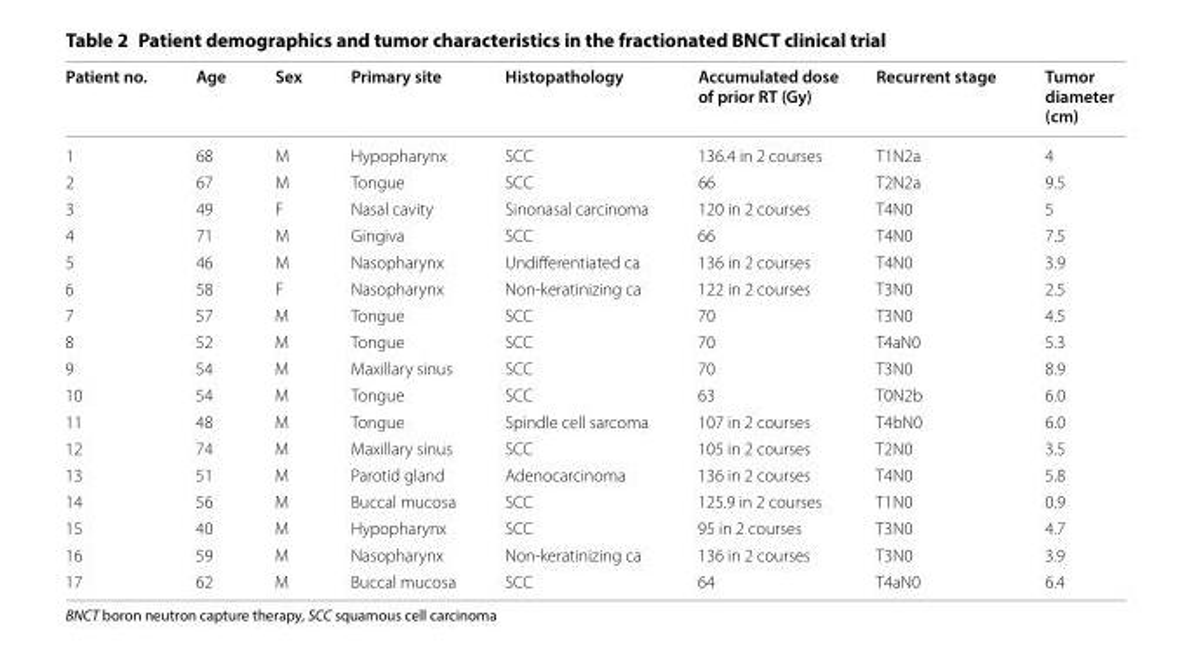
<table><thead><tr><td>Patient no.</td><td>Age</td><td>Sex</td><td>Primary site</td><td>Histopathology</td><td>Accumulated dose of prior RT (Gy)</td><td>Recurrent stage</td><td>Tumor diameter (cm)</td></tr></thead><tbody><tr><td>1</td><td>68</td><td>M</td><td>Hypopharynx</td><td>SCC</td><td>136.4 in 2 courses</td><td>T1N2a</td><td>4</td></tr><tr><td>2</td><td>67</td><td>M</td><td>Tongue</td><td>SCC</td><td>66</td><td>T2N2a</td><td>9.5</td></tr><tr><td>3</td><td>49</td><td>F</td><td>Nasal cavity</td><td>Sinonasal carcinoma</td><td>120 in 2 courses</td><td>T4N0</td><td>5</td></tr><tr><td>4</td><td>71</td><td>M</td><td>Gingiva</td><td>SCC</td><td>66</td><td>T4N0</td><td>7.5</td></tr><tr><td>5</td><td>46</td><td>M</td><td>Nasopharynx</td><td>Undifferentiated ca</td><td>136 in 2 courses</td><td>T4N0</td><td>3.9</td></tr><tr><td>6</td><td>58</td><td>F</td><td>Nasopharynx</td><td>Non‑keratinizing ca</td><td>122 in 2 courses</td><td>T3N0</td><td>2.5</td></tr><tr><td>7</td><td>57</td><td>M</td><td>Tongue</td><td>SCC</td><td>70</td><td>T3N0</td><td>4.5</td></tr><tr><td>8</td><td>52</td><td>M</td><td>Tongue</td><td>SCC</td><td>70</td><td>T4aN0</td><td>5.3</td></tr><tr><td>9</td><td>54</td><td>M</td><td>Maxillary sinus</td><td>SCC</td><td>70</td><td>T3N0</td><td>8.9</td></tr><tr><td>10</td><td>54</td><td>M</td><td>Tongue</td><td>SCC</td><td>63</td><td>T0N2b</td><td>6.0</td></tr><tr><td>11</td><td>48</td><td>M</td><td>Tongue</td><td>Spindle cell sarcoma</td><td>107 in 2 courses</td><td>T4bN0</td><td>6.0</td></tr><tr><td>12</td><td>74</td><td>M</td><td>Maxillary sinus</td><td>SCC</td><td>105 in 2 courses</td><td>T2N0</td><td>3.5</td></tr><tr><td>13</td><td>51</td><td>M</td><td>Parotid gland</td><td>Adenocarcinoma</td><td>136 in 2 courses</td><td>T4N0</td><td>5.8</td></tr><tr><td>14</td><td>56</td><td>M</td><td>Buccal mucosa</td><td>SCC</td><td>125.9 in 2 courses</td><td>T1N0</td><td>0.9</td></tr><tr><td>15</td><td>40</td><td>M</td><td>Hypopharynx</td><td>SCC</td><td>95 in 2 courses</td><td>T3N0</td><td>4.7</td></tr><tr><td>16</td><td>59</td><td>M</td><td>Nasopharynx</td><td>Non‑keratinizing ca</td><td>136 in 2 courses</td><td>T3N0</td><td>3.9</td></tr><tr><td>17</td><td>62</td><td>M</td><td>Buccal mucosa</td><td>SCC</td><td>64</td><td>T4aN0</td><td>6.4</td></tr></tbody></table>